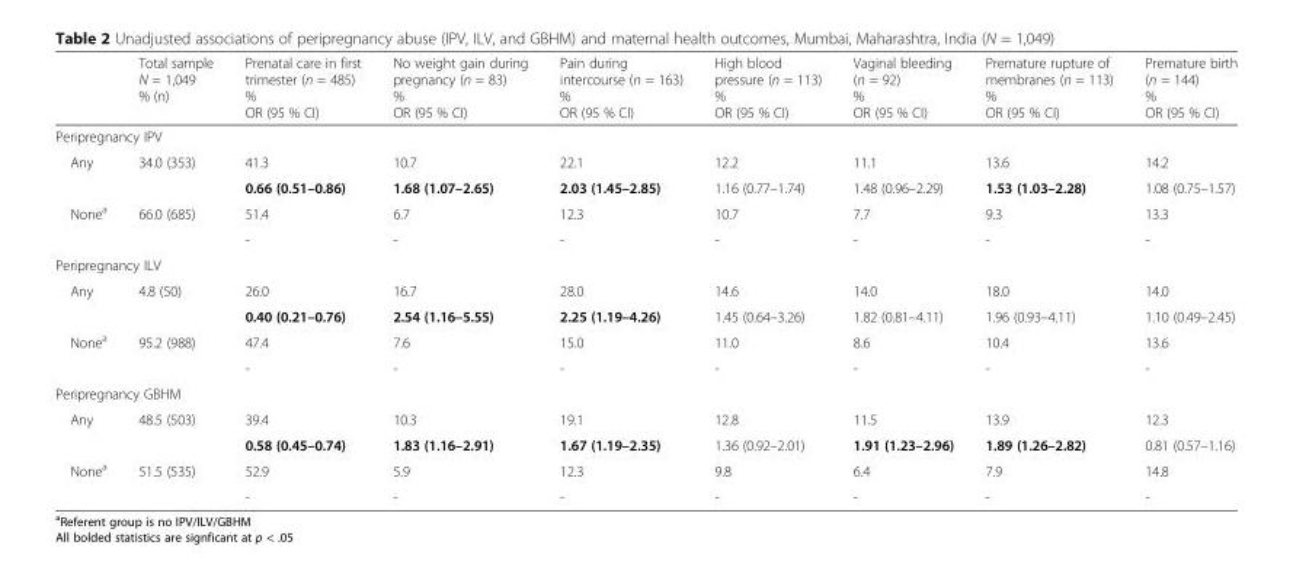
<table><thead><tr><td></td><td>Total sample N = 1,049 % (n)</td><td>Prenatal care in first trimester (n = 485) % OR (95 % CI)</td><td>No weight gain during pregnancy (n = 83) % OR (95 % CI)</td><td>Pain during intercourse (n = 163) % OR (95 % CI)</td><td>High blood pressure (n = 113) % OR (95 % CI)</td><td>Vaginal bleeding (n = 92) % OR (95 % CI)</td><td>Premature rupture of membranes (n = 113) % OR (95 % CI)</td><td>Premature birth (n = 144) % OR (95 % CI)</td></tr></thead><tbody><tr><td colspan="9">Peripregnancy IPV</td></tr><tr><td rowspan="2">Any</td><td>34.0 (353)</td><td>41.3</td><td>10.7</td><td>22.1</td><td>12.2</td><td>11.1</td><td>13.6</td><td>14.2</td></tr><tr><td></td><td>0.66 (0.51–0.86)</td><td>1.68 (1.07–2.65)</td><td>2.03 (1.45–2.85)</td><td>1.16 (0.77–1.74)</td><td>1.48 (0.96–2.29)</td><td>1.53 (1.03–2.28)</td><td>1.08 (0.75–1.57)</td></tr><tr><td rowspan="2">None<sup>a</sup></td><td>66.0 (685)</td><td>51.4</td><td>6.7</td><td>12.3</td><td>10.7</td><td>7.7</td><td>9.3</td><td>13.3</td></tr><tr><td></td><td>-</td><td>-</td><td>-</td><td>-</td><td>-</td><td>-</td><td>-</td></tr><tr><td colspan="9">Peripregnancy ILV</td></tr><tr><td rowspan="2">Any</td><td>4.8 (50)</td><td>26.0</td><td>16.7</td><td>28.0</td><td>14.6</td><td>14.0</td><td>18.0</td><td>14.0</td></tr><tr><td></td><td>0.40 (0.21–0.76)</td><td>2.54 (1.16–5.55)</td><td>2.25 (1.19–4.26)</td><td>1.45 (0.64–3.26)</td><td>1.82 (0.81–4.11)</td><td>1.96 (0.93–4.11)</td><td>1.10 (0.49–2.45)</td></tr><tr><td rowspan="2">None<sup>a</sup></td><td>95.2 (988)</td><td>47.4</td><td>7.6</td><td>15.0</td><td>11.0</td><td>8.6</td><td>10.4</td><td>13.6</td></tr><tr><td></td><td>-</td><td>-</td><td>-</td><td>-</td><td>-</td><td>-</td><td>-</td></tr><tr><td colspan="9">Peripregnancy GBHM</td></tr><tr><td rowspan="2">Any</td><td>48.5 (503)</td><td>39.4</td><td>10.3</td><td>19.1</td><td>12.8</td><td>11.5</td><td>13.9</td><td>12.3</td></tr><tr><td></td><td>0.58 (0.45–0.74)</td><td>1.83 (1.16–2.91)</td><td>1.67 (1.19–2.35)</td><td>1.36 (0.92–2.01)</td><td>1.91 (1.23–2.96)</td><td>1.89 (1.26–2.82)</td><td>0.81 (0.57–1.16)</td></tr><tr><td rowspan="2">None<sup>a</sup></td><td>51.5 (535)</td><td>52.9</td><td>5.9</td><td>12.3</td><td>9.8</td><td>6.4</td><td>7.9</td><td>14.8</td></tr><tr><td></td><td>-</td><td>-</td><td>-</td><td>-</td><td>-</td><td>-</td><td>-</td></tr></tbody></table>